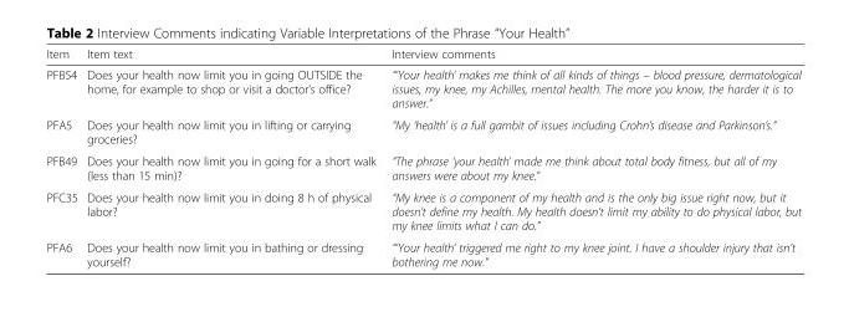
<table><thead><tr><td>Item</td><td>Item text</td><td>Interview comments</td></tr></thead><tbody><tr><td>PFB54</td><td>Does your health now limit you in going OUTSIDE the home, for example to shop or visit a doctor’s office?</td><td>“‘Your health’ makes me think of all kinds of things – blood pressure, dermatological issues, my knee, my Achilles, mental health. The more you know, the harder it is to answer.”</td></tr><tr><td>PFA5</td><td>Does your health now limit you in lifting or carrying groceries?</td><td>“My ‘health’ is a full gambit of issues including Crohn’s disease and Parkinson’s.”</td></tr><tr><td>PFB49</td><td>Does your health now limit you in going for a short walk (less than 15 min)?</td><td>“The phrase ‘your health’ made me think about total body fitness, but all of my answers were about my knee.”</td></tr><tr><td>PFC35</td><td>Does your health now limit you in doing 8 h of physical labor?</td><td>“My knee is a component of my health and is the only big issue right now, but it doesn’t define my health. My health doesn’t limit my ability to do physical labor, but my knee limits what I can do.”</td></tr><tr><td>PFA6</td><td>Does your health now limit you in bathing or dressing yourself?</td><td>“‘Your health’ triggered me right to my knee joint. I have a shoulder injury that isn’t bothering me now.”</td></tr></tbody></table>